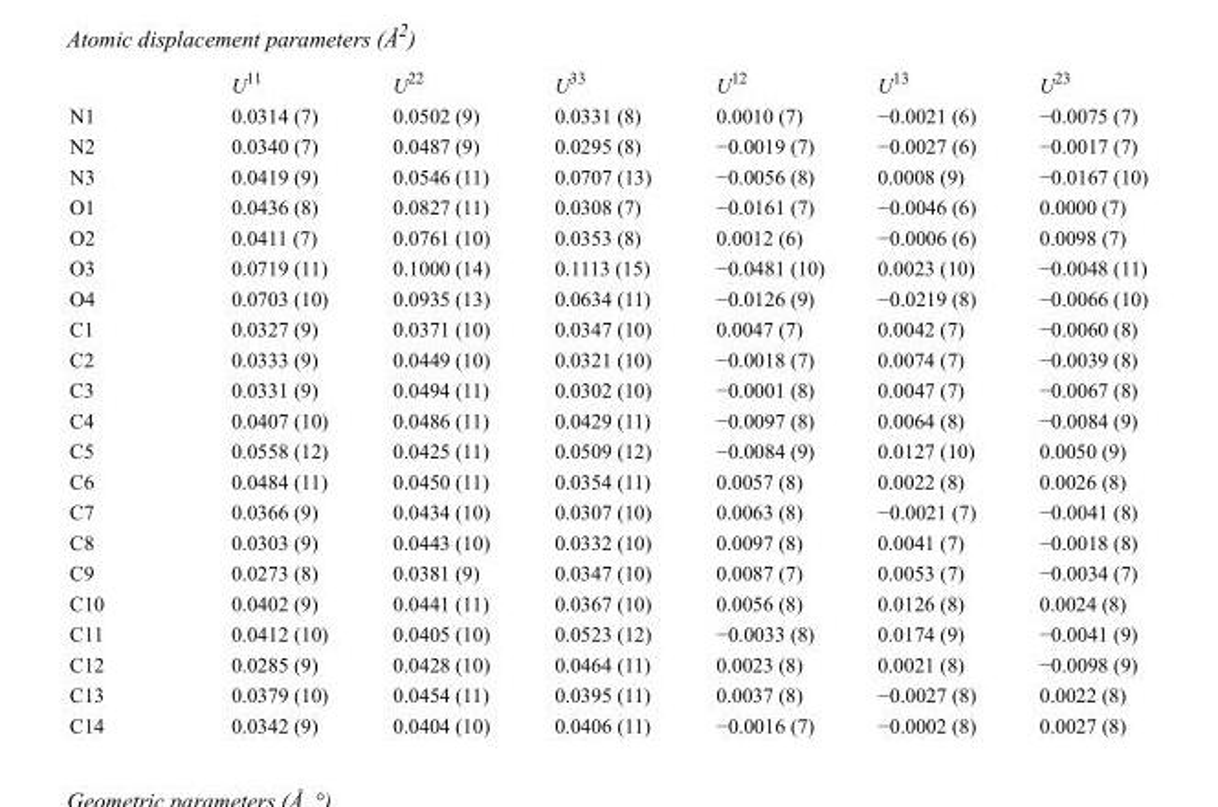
<table><thead><tr><td></td><td>U<sup>11</sup></td><td>U<sup>22</sup></td><td>U<sup>33</sup></td><td>U<sup>12</sup></td><td>U<sup>13</sup></td><td>U<sup>23</sup></td></tr></thead><tbody><tr><td>N1</td><td>0.0314 (7)</td><td>0.0502 (9)</td><td>0.0331 (8)</td><td>0.0010 (7)</td><td>−0.0021 (6)</td><td>−0.0075 (7)</td></tr><tr><td>N2</td><td>0.0340 (7)</td><td>0.0487 (9)</td><td>0.0295 (8)</td><td>−0.0019 (7)</td><td>−0.0027 (6)</td><td>−0.0017 (7)</td></tr><tr><td>N3</td><td>0.0419 (9)</td><td>0.0546 (11)</td><td>0.0707 (13)</td><td>−0.0056 (8)</td><td>0.0008 (9)</td><td>−0.0167 (10)</td></tr><tr><td>O1</td><td>0.0436 (8)</td><td>0.0827 (11)</td><td>0.0308 (7)</td><td>−0.0161 (7)</td><td>−0.0046 (6)</td><td>0.0000 (7)</td></tr><tr><td>O2</td><td>0.0411 (7)</td><td>0.0761 (10)</td><td>0.0353 (8)</td><td>0.0012 (6)</td><td>−0.0006 (6)</td><td>0.0098 (7)</td></tr><tr><td>O3</td><td>0.0719 (11)</td><td>0.1000 (14)</td><td>0.1113 (15)</td><td>−0.0481 (10)</td><td>0.0023 (10)</td><td>−0.0048 (11)</td></tr><tr><td>O4</td><td>0.0703 (10)</td><td>0.0935 (13)</td><td>0.0634 (11)</td><td>−0.0126 (9)</td><td>−0.0219 (8)</td><td>−0.0066 (10)</td></tr><tr><td>C1</td><td>0.0327 (9)</td><td>0.0371 (10)</td><td>0.0347 (10)</td><td>0.0047 (7)</td><td>0.0042 (7)</td><td>−0.0060 (8)</td></tr><tr><td>C2</td><td>0.0333 (9)</td><td>0.0449 (10)</td><td>0.0321 (10)</td><td>−0.0018 (7)</td><td>0.0074 (7)</td><td>−0.0039 (8)</td></tr><tr><td>C3</td><td>0.0331 (9)</td><td>0.0494 (11)</td><td>0.0302 (10)</td><td>−0.0001 (8)</td><td>0.0047 (7)</td><td>−0.0067 (8)</td></tr><tr><td>C4</td><td>0.0407 (10)</td><td>0.0486 (11)</td><td>0.0429 (11)</td><td>−0.0097 (8)</td><td>0.0064 (8)</td><td>−0.0084 (9)</td></tr><tr><td>C5</td><td>0.0558 (12)</td><td>0.0425 (11)</td><td>0.0509 (12)</td><td>−0.0084 (9)</td><td>0.0127 (10)</td><td>0.0050 (9)</td></tr><tr><td>C6</td><td>0.0484 (11)</td><td>0.0450 (11)</td><td>0.0354 (11)</td><td>0.0057 (8)</td><td>0.0022 (8)</td><td>0.0026 (8)</td></tr><tr><td>C7</td><td>0.0366 (9)</td><td>0.0434 (10)</td><td>0.0307 (10)</td><td>0.0063 (8)</td><td>−0.0021 (7)</td><td>−0.0041 (8)</td></tr><tr><td>C8</td><td>0.0303 (9)</td><td>0.0443 (10)</td><td>0.0332 (10)</td><td>0.0097 (8)</td><td>0.0041 (7)</td><td>−0.0018 (8)</td></tr><tr><td>C9</td><td>0.0273 (8)</td><td>0.0381 (9)</td><td>0.0347 (10)</td><td>0.0087 (7)</td><td>0.0053 (7)</td><td>−0.0034 (7)</td></tr><tr><td>C10</td><td>0.0402 (9)</td><td>0.0441 (11)</td><td>0.0367 (10)</td><td>0.0056 (8)</td><td>0.0126 (8)</td><td>0.0024 (8)</td></tr><tr><td>C11</td><td>0.0412 (10)</td><td>0.0405 (10)</td><td>0.0523 (12)</td><td>−0.0033 (8)</td><td>0.0174 (9)</td><td>−0.0041 (9)</td></tr><tr><td>C12</td><td>0.0285 (9)</td><td>0.0428 (10)</td><td>0.0464 (11)</td><td>0.0023 (8)</td><td>0.0021 (8)</td><td>−0.0098 (9)</td></tr><tr><td>C13</td><td>0.0379 (10)</td><td>0.0454 (11)</td><td>0.0395 (11)</td><td>0.0037 (8)</td><td>−0.0027 (8)</td><td>0.0022 (8)</td></tr><tr><td>C14</td><td>0.0342 (9)</td><td>0.0404 (10)</td><td>0.0406 (11)</td><td>−0.0016 (7)</td><td>−0.0002 (8)</td><td>0.0027 (8)</td></tr></tbody></table>